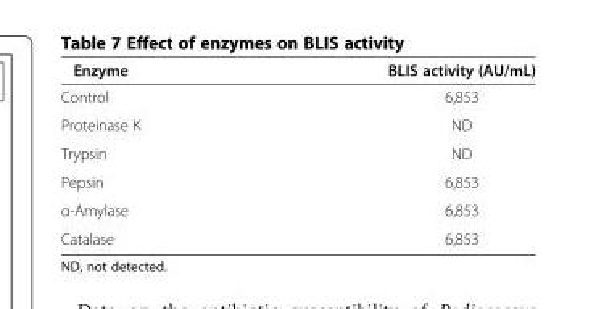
<table><thead><tr><td>Enzyme</td><td>BLIS activity (AU/mL)</td></tr></thead><tbody><tr><td>Control</td><td>6,853</td></tr><tr><td>Proteinase K</td><td>ND</td></tr><tr><td>Trypsin</td><td>ND</td></tr><tr><td>Pepsin</td><td>6,853</td></tr><tr><td>α-Amylase</td><td>6,853</td></tr><tr><td>Catalase</td><td>6,853</td></tr></tbody></table>